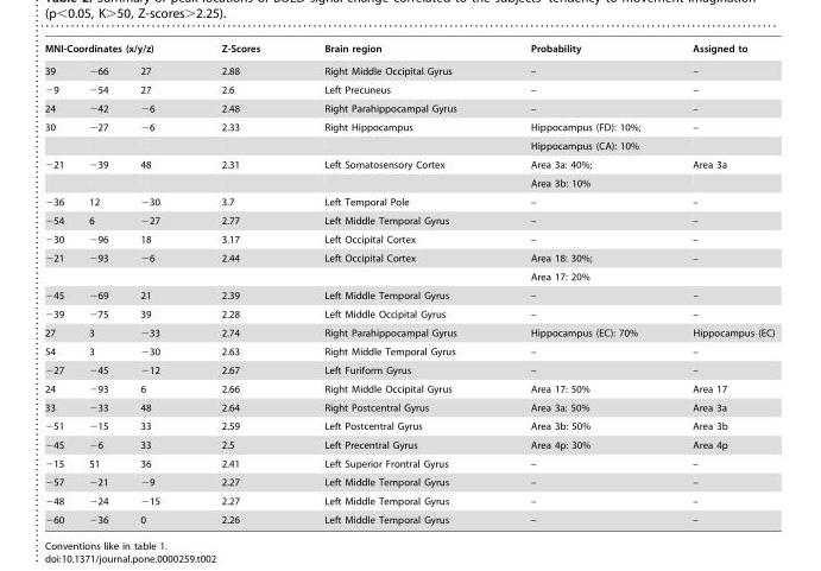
<table><thead><tr><td colspan="3">MNI-Coordinates (x/y/z)</td><td rowspan="2">Z-Scores 2.88</td><td rowspan="2">Brain region Right Middle Occipital Gyrus</td><td rowspan="2">Probability –</td><td rowspan="2">Assigned to –</td></tr><tr><td>39</td><td>−66</td><td>27</td></tr></thead><tbody><tr><td>−9</td><td>−54</td><td>27</td><td>2.6</td><td>Left Precuneus</td><td>–</td><td>–</td></tr><tr><td>24</td><td>−42</td><td>−6</td><td>2.48</td><td>Right Parahippocampal Gyrus</td><td>–</td><td>–</td></tr><tr><td rowspan="2">30</td><td>−27</td><td>−6</td><td>2.33</td><td>Right Hippocampus</td><td>Hippocampus (FD): 10%;</td><td>–</td></tr><tr><td></td><td></td><td></td><td></td><td>Hippocampus (CA): 10%</td><td></td></tr><tr><td rowspan="2">−21</td><td>−39</td><td>48</td><td>2.31</td><td>Left Somatosensory Cortex</td><td>Area 3a: 40%;</td><td>Area 3a</td></tr><tr><td></td><td></td><td></td><td></td><td>Area 3b: 10%</td><td></td></tr><tr><td>−36</td><td>12</td><td>−30</td><td>3.7</td><td>Left Temporal Pole</td><td>–</td><td>–</td></tr><tr><td>−54</td><td>6</td><td>−27</td><td>2.77</td><td>Left Middle Temporal Gyrus</td><td>–</td><td>–</td></tr><tr><td>−30</td><td>−96</td><td>18</td><td>3.17</td><td>Left Occipital Cortex</td><td>–</td><td>–</td></tr><tr><td rowspan="2">−21</td><td>−93</td><td>−6</td><td>2.44</td><td>Left Occipital Cortex</td><td>Area 18: 30%;</td><td>–</td></tr><tr><td></td><td></td><td></td><td></td><td>Area 17: 20%</td><td></td></tr><tr><td>−45</td><td>−69</td><td>21</td><td>2.39</td><td>Left Middle Temporal Gyrus</td><td>–</td><td>–</td></tr><tr><td>−39</td><td>−75</td><td>39</td><td>2.28</td><td>Left Middle Occipital Gyrus</td><td>–</td><td>–</td></tr><tr><td>27</td><td>3</td><td>−33</td><td>2.74</td><td>Right Parahippocampal Gyrus</td><td>Hippocampus (EC): 70%</td><td>Hippocampus (EC)</td></tr><tr><td>54</td><td>3</td><td>−30</td><td>2.63</td><td>Right Middle Temporal Gyrus</td><td>–</td><td>–</td></tr><tr><td>−27</td><td>−45</td><td>−12</td><td>2.67</td><td>Left Furiform Gyrus</td><td>–</td><td>–</td></tr><tr><td>24</td><td>−93</td><td>6</td><td>2.66</td><td>Right Middle Occipital Gyrus</td><td>Area 17: 50%</td><td>Area 17</td></tr><tr><td>33</td><td>−33</td><td>48</td><td>2.64</td><td>Right Postcentral Gyrus</td><td>Area 3a: 50%</td><td>Area 3a</td></tr><tr><td>−51</td><td>−15</td><td>33</td><td>2.59</td><td>Left Postcentral Gyrus</td><td>Area 3b: 50%</td><td>Area 3b</td></tr><tr><td>−45</td><td>−6</td><td>33</td><td>2.5</td><td>Left Precentral Gyrus</td><td>Area 4p: 30%</td><td>Area 4p</td></tr><tr><td>−15</td><td>51</td><td>36</td><td>2.41</td><td>Left Superior Frontral Gyrus</td><td>–</td><td>–</td></tr><tr><td>−57</td><td>−21</td><td>−9</td><td>2.27</td><td>Left Middle Temporal Gyrus</td><td>–</td><td>–</td></tr><tr><td>−48</td><td>−24</td><td>−15</td><td>2.27</td><td>Left Middle Temporal Gyrus</td><td>–</td><td>–</td></tr><tr><td>−60</td><td>−36</td><td>0</td><td>2.26</td><td>Left Middle Temporal Gyrus</td><td>–</td><td>–</td></tr></tbody></table>